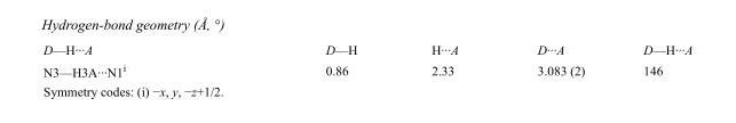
<table><tbody><tr><td>D—H···A</td><td>D—H</td><td>H···A</td><td>D···A</td><td>D—H···A</td></tr><tr><td>N3—H3A···N1<sup>i</sup></td><td>0.86</td><td>2.33</td><td>3.083 (2)</td><td>146</td></tr></tbody></table>